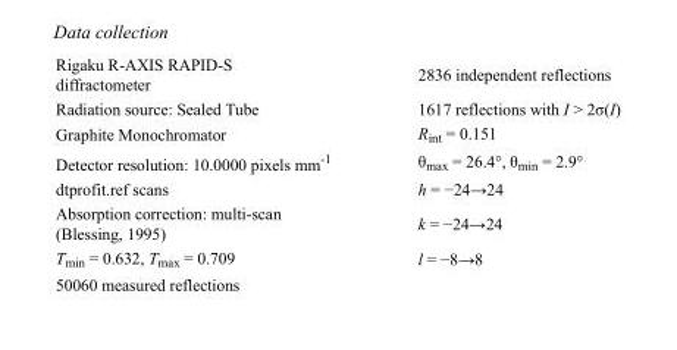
<table><tbody><tr><td>Rigaku R-AXIS RAPID-S diffractometer</td><td>2836 independent reflections</td></tr><tr><td>Radiation source: Sealed Tube</td><td>1617 reflections with I &gt; 2σ(I)</td></tr><tr><td>Graphite Monochromator</td><td>R<sub>int</sub> = 0.151</td></tr><tr><td>Detector resolution: 10.0000 pixels mm<sup>-1</sup></td><td>θ<sub>max</sub> = 26.4°, θ<sub>min</sub> = 2.9°</td></tr><tr><td>dtprofit.ref scans</td><td>h = −24→24</td></tr><tr><td>Absorption correction: multi-scan (Blessing, 1995)</td><td>k = −24→24</td></tr><tr><td>T<sub>min</sub> = 0.632, T<sub>max</sub> = 0.709</td><td>l = −8→8</td></tr><tr><td>50060 measured reflections</td><td></td></tr></tbody></table>